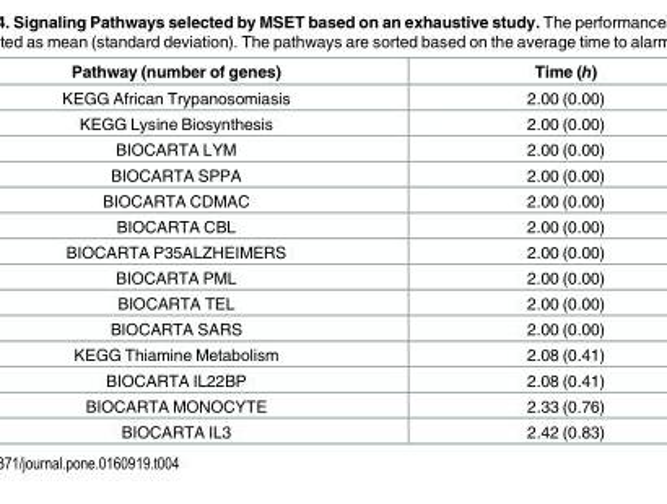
<table><thead><tr><td>Pathway (number of genes)</td><td>Time (h)</td></tr></thead><tbody><tr><td>KEGG African Trypanosomiasis</td><td>2.00 (0.00)</td></tr><tr><td>KEGG Lysine Biosynthesis</td><td>2.00 (0.00)</td></tr><tr><td>BIOCARTA LYM</td><td>2.00 (0.00)</td></tr><tr><td>BIOCARTA SPPA</td><td>2.00 (0.00)</td></tr><tr><td>BIOCARTA CDMAC</td><td>2.00 (0.00)</td></tr><tr><td>BIOCARTA CBL</td><td>2.00 (0.00)</td></tr><tr><td>BIOCARTA P35ALZHEIMERS</td><td>2.00 (0.00)</td></tr><tr><td>BIOCARTA PML</td><td>2.00 (0.00)</td></tr><tr><td>BIOCARTA TEL</td><td>2.00 (0.00)</td></tr><tr><td>BIOCARTA SARS</td><td>2.00 (0.00)</td></tr><tr><td>KEGG Thiamine Metabolism</td><td>2.08 (0.41)</td></tr><tr><td>BIOCARTA IL22BP</td><td>2.08 (0.41)</td></tr><tr><td>BIOCARTA MONOCYTE</td><td>2.33 (0.76)</td></tr><tr><td>BIOCARTA IL3</td><td>2.42 (0.83)</td></tr></tbody></table>